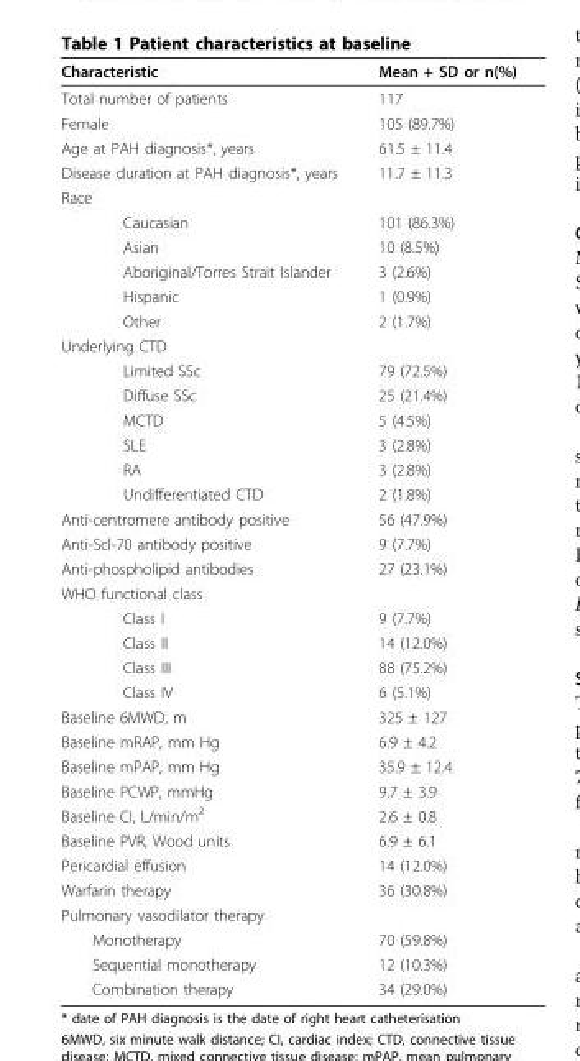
<table><thead><tr><td>Characteristic</td><td>Mean + SD or n(%)</td></tr></thead><tbody><tr><td>Total number of patients</td><td>117</td></tr><tr><td>Female</td><td>105 (89.7%)</td></tr><tr><td>Age at PAH diagnosis*, years</td><td>61.5 ± 11.4</td></tr><tr><td>Disease duration at PAH diagnosis*, years</td><td>11.7 ± 11.3</td></tr><tr><td colspan="2">Race</td></tr><tr><td>Caucasian</td><td>101 (86.3%)</td></tr><tr><td>Asian</td><td>10 (8.5%)</td></tr><tr><td>Aboriginal/Torres Strait Islander</td><td>3 (2.6%)</td></tr><tr><td>Hispanic</td><td>1 (0.9%)</td></tr><tr><td>Other</td><td>2 (1.7%)</td></tr><tr><td colspan="2">Underlying CTD</td></tr><tr><td>Limited SSc</td><td>79 (72.5%)</td></tr><tr><td>Diffuse SSc</td><td>25 (21.4%)</td></tr><tr><td>MCTD</td><td>5 (4.5%)</td></tr><tr><td>SLE</td><td>3 (2.8%)</td></tr><tr><td>RA</td><td>3 (2.8%)</td></tr><tr><td>Undifferentiated CTD</td><td>2 (1.8%)</td></tr><tr><td>Anti-centromere antibody positive</td><td>56 (47.9%)</td></tr><tr><td>Anti-Scl-70 antibody positive</td><td>9 (7.7%)</td></tr><tr><td>Anti-phospholipid antibodies</td><td>27 (23.1%)</td></tr><tr><td colspan="2">WHO functional class</td></tr><tr><td>Class I</td><td>9 (7.7%)</td></tr><tr><td>Class II</td><td>14 (12.0%)</td></tr><tr><td>Class III</td><td>88 (75.2%)</td></tr><tr><td>Class IV</td><td>6 (5.1%)</td></tr><tr><td>Baseline 6MWD, m</td><td>325 ± 127</td></tr><tr><td>Baseline mRAP, mm Hg</td><td>6.9 ± 4.2</td></tr><tr><td>Baseline mPAP, mm Hg</td><td>35.9 ± 12.4</td></tr><tr><td>Baseline PCWP, mmHg</td><td>9.7 ± 3.9</td></tr><tr><td>Baseline CI, L/min/m<sup>2</sup></td><td>2.6 ± 0.8</td></tr><tr><td>Baseline PVR, Wood units</td><td>6.9 ± 6.1</td></tr><tr><td>Pericardial effusion</td><td>14 (12.0%)</td></tr><tr><td>Warfarin therapy</td><td>36 (30.8%)</td></tr><tr><td colspan="2">Pulmonary vasodilator therapy</td></tr><tr><td>Monotherapy</td><td>70 (59.8%)</td></tr><tr><td>Sequential monotherapy</td><td>12 (10.3%)</td></tr><tr><td>Combination therapy</td><td>34 (29.0%)</td></tr></tbody></table>